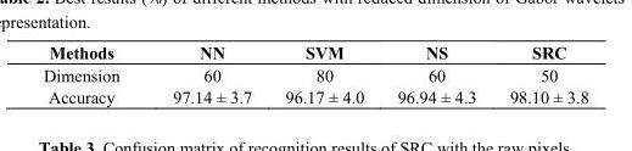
<table><thead><tr><td>Methods</td><td>NN</td><td>SVM</td><td>NS</td><td>SRC</td></tr></thead><tbody><tr><td>Dimension</td><td>60</td><td>80</td><td>60</td><td>50</td></tr><tr><td>Accuracy</td><td>97.14 ± 3.7</td><td>96.17 ± 4.0</td><td>96.94 ± 4.3</td><td>98.10 ± 3.8</td></tr></tbody></table>